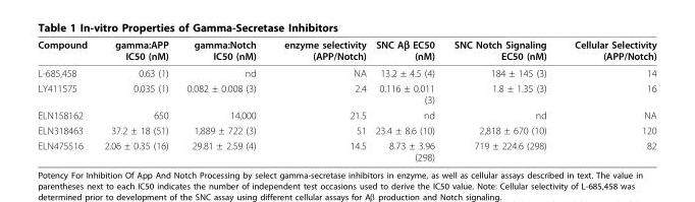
<table><thead><tr><td>Compound</td><td>gamma:APP IC50 (nM)</td><td>gamma:Notch IC50 (nM)</td><td>enzyme selectivity (APP/Notch)</td><td>SNC Aβ EC50 (nM)</td><td>SNC Notch Signaling EC50 (nM)</td><td>Cellular Selectivity (APP/Notch)</td></tr></thead><tbody><tr><td>L-685,458</td><td>0.63 (1)</td><td>nd</td><td>NA</td><td>13.2 ± 4.5 (4)</td><td>184 ± 145 (3)</td><td>14</td></tr><tr><td>LY411575</td><td>0.035 (1)</td><td>0.082 ± 0.008 (3)</td><td>2.4</td><td>0.116 ± 0.011 (3)</td><td>1.8 ± 1.35 (3)</td><td>16</td></tr><tr><td>ELN158162</td><td>650</td><td>14,000</td><td>21.5</td><td>nd</td><td>nd</td><td>NA</td></tr><tr><td>ELN318463</td><td>37.2 ± 18 (51)</td><td>1,889 ± 722 (3)</td><td>51</td><td>23.4 ± 8.6 (10)</td><td>2,818 ± 670 (10)</td><td>120</td></tr><tr><td>ELN475516</td><td>2.06 ± 0.35 (16)</td><td>29.81 ± 2.59 (4)</td><td>14.5</td><td>8.73 ± 3.96 (298)</td><td>719 ± 224.6 (298)</td><td>82</td></tr></tbody></table>